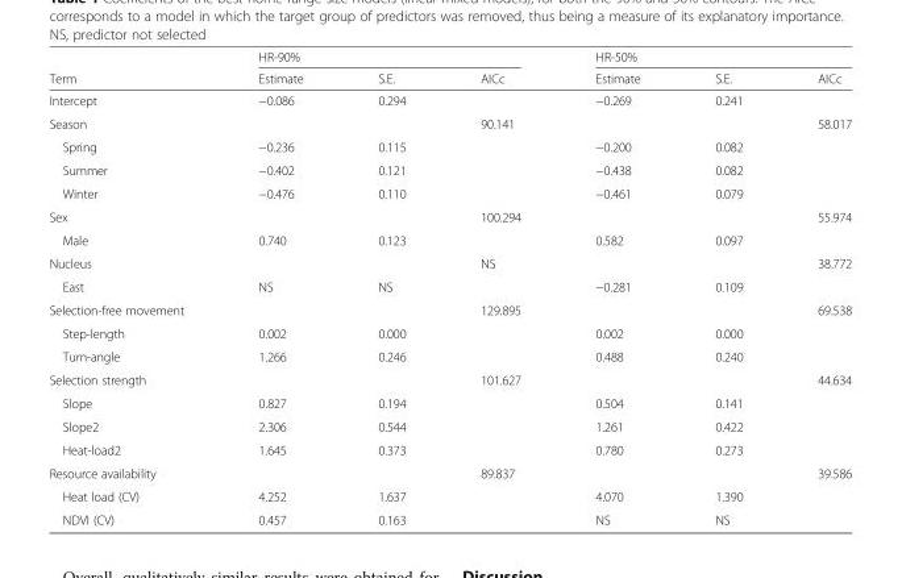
<table><thead><tr><td rowspan="2">Term</td><td colspan="3">HR-90%</td><td colspan="3">HR-50%</td></tr><tr><td>Estimate</td><td>S.E.</td><td>AICc</td><td>Estimate</td><td>S.E.</td><td>AICc</td></tr></thead><tbody><tr><td>Intercept</td><td>−0.086</td><td>0.294</td><td></td><td>−0.269</td><td>0.241</td><td></td></tr><tr><td>Season</td><td></td><td></td><td>90.141</td><td></td><td></td><td>58.017</td></tr><tr><td>Spring</td><td>−0.236</td><td>0.115</td><td></td><td>−0.200</td><td>0.082</td><td></td></tr><tr><td>Summer</td><td>−0.402</td><td>0.121</td><td></td><td>−0.438</td><td>0.082</td><td></td></tr><tr><td>Winter</td><td>−0.476</td><td>0.110</td><td></td><td>−0.461</td><td>0.079</td><td></td></tr><tr><td>Sex</td><td></td><td></td><td>100.294</td><td></td><td></td><td>55.974</td></tr><tr><td>Male</td><td>0.740</td><td>0.123</td><td></td><td>0.582</td><td>0.097</td><td></td></tr><tr><td>Nucleus</td><td></td><td></td><td>NS</td><td></td><td></td><td>38.772</td></tr><tr><td>East</td><td>NS</td><td>NS</td><td></td><td>−0.281</td><td>0.109</td><td></td></tr><tr><td>Selection-free movement</td><td></td><td></td><td>129.895</td><td></td><td></td><td>69.538</td></tr><tr><td>Step-length</td><td>0.002</td><td>0.000</td><td></td><td>0.002</td><td>0.000</td><td></td></tr><tr><td>Turn-angle</td><td>1.266</td><td>0.246</td><td></td><td>0.488</td><td>0.240</td><td></td></tr><tr><td>Selection strength</td><td></td><td></td><td>101.627</td><td></td><td></td><td>44.634</td></tr><tr><td>Slope</td><td>0.827</td><td>0.194</td><td></td><td>0.504</td><td>0.141</td><td></td></tr><tr><td>Slope2</td><td>2.306</td><td>0.544</td><td></td><td>1.261</td><td>0.422</td><td></td></tr><tr><td>Heat-load2</td><td>1.645</td><td>0.373</td><td></td><td>0.780</td><td>0.273</td><td></td></tr><tr><td>Resource availability</td><td></td><td></td><td>89.837</td><td></td><td></td><td>39.586</td></tr><tr><td>Heat load (CV)</td><td>4.252</td><td>1.637</td><td></td><td>4.070</td><td>1.390</td><td></td></tr><tr><td>NDVI (CV)</td><td>0.457</td><td>0.163</td><td></td><td>NS</td><td>NS</td><td></td></tr></tbody></table>